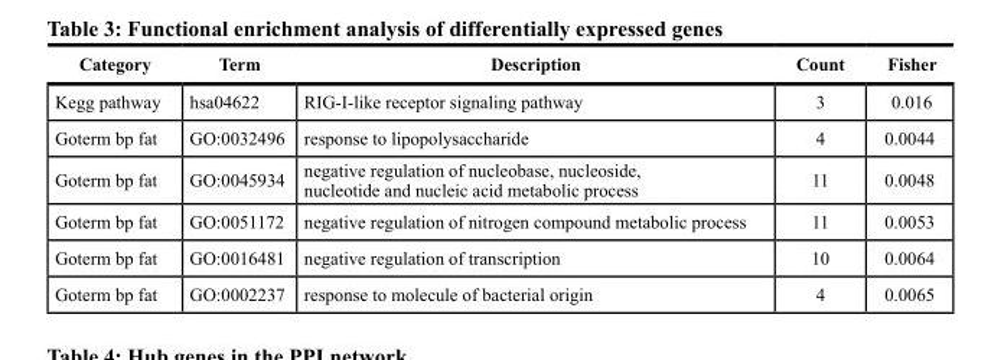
<table><thead><tr><td>Category</td><td>Term</td><td>Description</td><td>Count</td><td>Fisher</td></tr></thead><tbody><tr><td>Kegg pathway</td><td>hsa04622</td><td>RIG-I-like receptor signaling pathway</td><td>3</td><td>0.016</td></tr><tr><td>Goterm bp fat</td><td>GO:0032496</td><td>response to lipopolysaccharide</td><td>4</td><td>0.0044</td></tr><tr><td>Goterm bp fat</td><td>GO:0045934</td><td>negative regulation of nucleobase, nucleoside, nucleotide and nucleic acid metabolic process</td><td>11</td><td>0.0048</td></tr><tr><td>Goterm bp fat</td><td>GO:0051172</td><td>negative regulation of nitrogen compound metabolic process</td><td>11</td><td>0.0053</td></tr><tr><td>Goterm bp fat</td><td>GO:0016481</td><td>negative regulation of transcription</td><td>10</td><td>0.0064</td></tr><tr><td>Goterm bp fat</td><td>GO:0002237</td><td>response to molecule of bacterial origin</td><td>4</td><td>0.0065</td></tr></tbody></table>